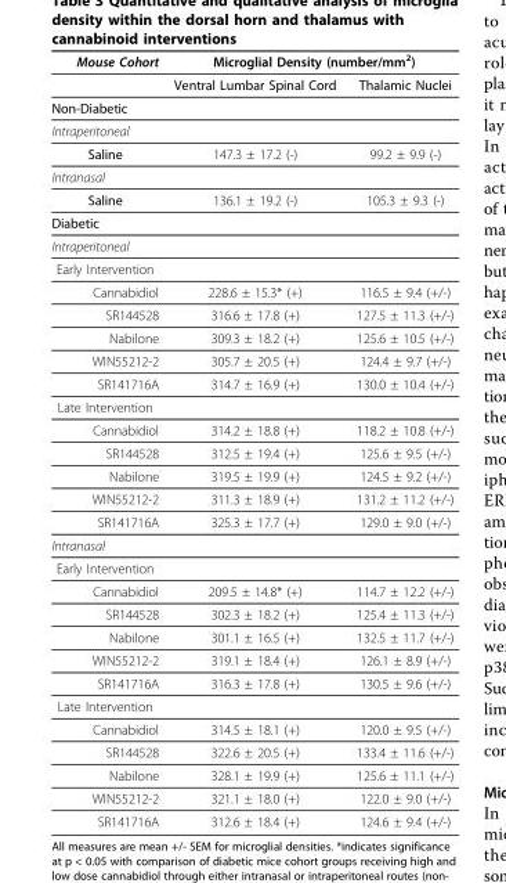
<table><thead><tr><td rowspan="2">Mouse Cohort</td><td colspan="2">Microglial Density (number/mm<sup>2</sup>)</td></tr><tr><td>Ventral Lumbar Spinal Cord</td><td>Thalamic Nuclei</td></tr></thead><tbody><tr><td colspan="3">Non-Diabetic</td></tr><tr><td colspan="3">Intraperitoneal</td></tr><tr><td>Saline</td><td>147.3 ± 17.2 (-)</td><td>99.2 ± 9.9 (-)</td></tr><tr><td colspan="3">Intranasal</td></tr><tr><td>Saline</td><td>136.1 ± 19.2 (-)</td><td>105.3 ± 9.3 (-)</td></tr><tr><td colspan="3">Diabetic</td></tr><tr><td colspan="3">Intraperitoneal</td></tr><tr><td colspan="3">Early Intervention</td></tr><tr><td>Cannabidiol</td><td>228.6 ± 15.3* (+)</td><td>116.5 ± 9.4 (+/-)</td></tr><tr><td>SR144528</td><td>316.6 ± 17.8 (+)</td><td>127.5 ± 11.3 (+/-)</td></tr><tr><td>Nabilone</td><td>309.3 ± 18.2 (+)</td><td>125.6 ± 10.5 (+/-)</td></tr><tr><td>WIN55212-2</td><td>305.7 ± 20.5 (+)</td><td>124.4 ± 9.7 (+/-)</td></tr><tr><td>SR141716A</td><td>314.7 ± 16.9 (+)</td><td>130.0 ± 10.4 (+/-)</td></tr><tr><td colspan="3">Late Intervention</td></tr><tr><td>Cannabidiol</td><td>314.2 ± 18.8 (+)</td><td>118.2 ± 10.8 (+/-)</td></tr><tr><td>SR144528</td><td>312.5 ± 19.4 (+)</td><td>125.6 ± 9.5 (+/-)</td></tr><tr><td>Nabilone</td><td>319.5 ± 19.9 (+)</td><td>124.5 ± 9.2 (+/-)</td></tr><tr><td>WIN55212-2</td><td>311.3 ± 18.9 (+)</td><td>131.2 ± 11.2 (+/-)</td></tr><tr><td>SR141716A</td><td>325.3 ± 17.7 (+)</td><td>129.0 ± 9.0 (+/-)</td></tr><tr><td colspan="3">Intranasal</td></tr><tr><td colspan="3">Early Intervention</td></tr><tr><td>Cannabidiol</td><td>209.5 ± 14.8* (+)</td><td>114.7 ± 12.2 (+/-)</td></tr><tr><td>SR144528</td><td>302.3 ± 18.2 (+)</td><td>125.4 ± 11.3 (+/-)</td></tr><tr><td>Nabilone</td><td>301.1 ± 16.5 (+)</td><td>132.5 ± 11.7 (+/-)</td></tr><tr><td>WIN55212-2</td><td>319.1 ± 18.4 (+)</td><td>126.1 ± 8.9 (+/-)</td></tr><tr><td>SR141716A</td><td>316.3 ± 17.8 (+)</td><td>130.5 ± 9.6 (+/-)</td></tr><tr><td colspan="3">Late Intervention</td></tr><tr><td>Cannabidiol</td><td>314.5 ± 18.1 (+)</td><td>120.0 ± 9.5 (+/-)</td></tr><tr><td>SR144528</td><td>322.6 ± 20.5 (+)</td><td>133.4 ± 11.6 (+/-)</td></tr><tr><td>Nabilone</td><td>328.1 ± 19.9 (+)</td><td>125.6 ± 11.1 (+/-)</td></tr><tr><td>WIN55212-2</td><td>321.1 ± 18.0 (+)</td><td>122.0 ± 9.0 (+/-)</td></tr><tr><td>SR141716A</td><td>312.6 ± 18.4 (+)</td><td>124.6 ± 9.4 (+/-)</td></tr></tbody></table>